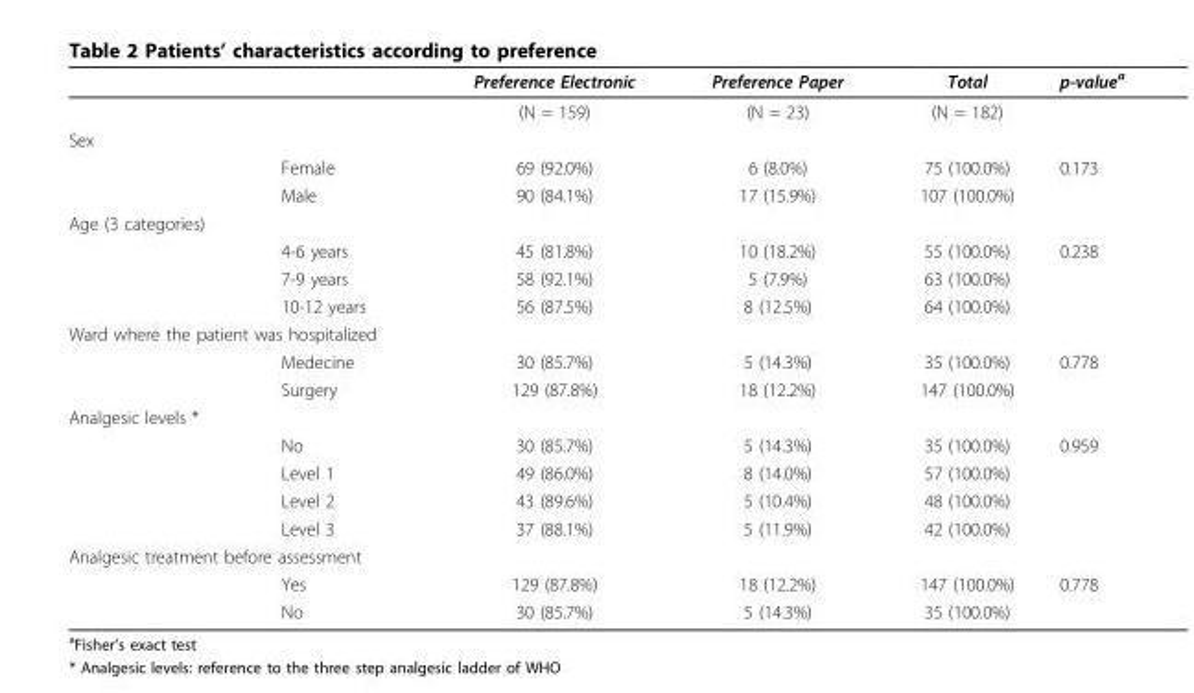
<table><thead><tr><td></td><td></td><td>Preference Electronic</td><td>Preference Paper</td><td>Total</td><td>p-value<sup>a</sup></td></tr></thead><tbody><tr><td></td><td></td><td>(N = 159)</td><td>(N = 23)</td><td>(N = 182)</td><td></td></tr><tr><td colspan="6">Sex</td></tr><tr><td></td><td>Female</td><td>69 (92.0%)</td><td>6 (8.0%)</td><td>75 (100.0%)</td><td>0.173</td></tr><tr><td></td><td>Male</td><td>90 (84.1%)</td><td>17 (15.9%)</td><td>107 (100.0%)</td><td></td></tr><tr><td colspan="6">Age (3 categories)</td></tr><tr><td></td><td>4-6 years</td><td>45 (81.8%)</td><td>10 (18.2%)</td><td>55 (100.0%)</td><td>0.238</td></tr><tr><td></td><td>7-9 years</td><td>58 (92.1%)</td><td>5 (7.9%)</td><td>63 (100.0%)</td><td></td></tr><tr><td></td><td>10-12 years</td><td>56 (87.5%)</td><td>8 (12.5%)</td><td>64 (100.0%)</td><td></td></tr><tr><td colspan="6">Ward where the patient was hospitalized</td></tr><tr><td></td><td>Medecine</td><td>30 (85.7%)</td><td>5 (14.3%)</td><td>35 (100.0%)</td><td>0.778</td></tr><tr><td></td><td>Surgery</td><td>129 (87.8%)</td><td>18 (12.2%)</td><td>147 (100.0%)</td><td></td></tr><tr><td colspan="6">Analgesic levels *</td></tr><tr><td></td><td>No</td><td>30 (85.7%)</td><td>5 (14.3%)</td><td>35 (100.0%)</td><td>0.959</td></tr><tr><td></td><td>Level 1</td><td>49 (86.0%)</td><td>8 (14.0%)</td><td>57 (100.0%)</td><td></td></tr><tr><td></td><td>Level 2</td><td>43 (89.6%)</td><td>5 (10.4%)</td><td>48 (100.0%)</td><td></td></tr><tr><td></td><td>Level 3</td><td>37 (88.1%)</td><td>5 (11.9%)</td><td>42 (100.0%)</td><td></td></tr><tr><td colspan="6">Analgesic treatment before assessment</td></tr><tr><td></td><td>Yes</td><td>129 (87.8%)</td><td>18 (12.2%)</td><td>147 (100.0%)</td><td>0.778</td></tr><tr><td></td><td>No</td><td>30 (85.7%)</td><td>5 (14.3%)</td><td>35 (100.0%)</td><td></td></tr></tbody></table>